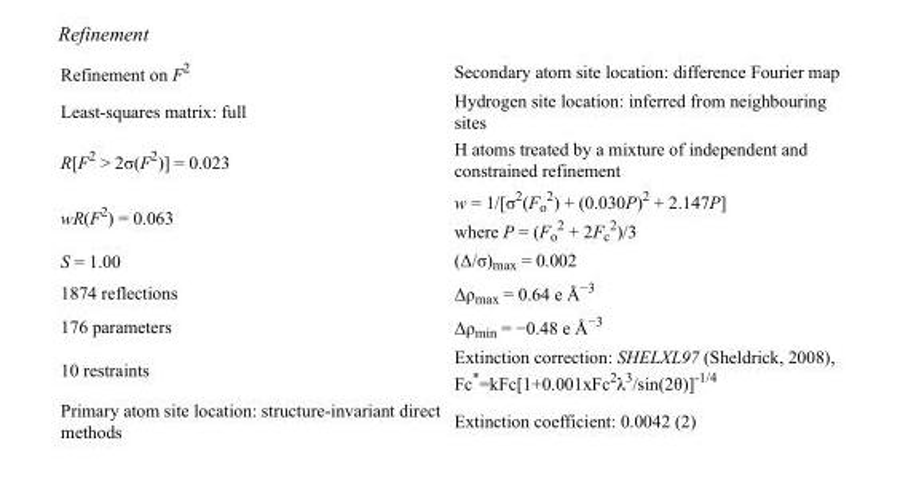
<table><tbody><tr><td>Refinement on F<sup>2</sup></td><td>Secondary atom site location: difference Fourier map</td></tr><tr><td>Least-squares matrix: full</td><td>Hydrogen site location: inferred from neighbouring sites</td></tr><tr><td>R[F<sup>2</sup> &gt; 2σ(F<sup>2</sup>)] = 0.023</td><td>H atoms treated by a mixture of independent and constrained refinement</td></tr><tr><td>wR(F<sup>2</sup>) = 0.063</td><td>w = 1/[σ<sup>2</sup>(F<sub>o</sub> <sup>2</sup>) + (0.030P)<sup>2</sup> + 2.147P] where P = (F<sub>o</sub> <sup>2</sup> + 2F<sub>c</sub> <sup>2</sup>)/3</td></tr><tr><td>S = 1.00</td><td>(Δ/σ)<sub>max</sub> = 0.002</td></tr><tr><td>1874 reflections</td><td>Δρ<sub>max</sub> = 0.64 e Å<sup>−3</sup></td></tr><tr><td>176 parameters</td><td>Δρ<sub>min</sub> = −0.48 e Å<sup>−3</sup></td></tr><tr><td>10 restraints</td><td>Extinction correction: SHELXL97 (Sheldrick, 2008), Fc*=kFc[1+0.001xFc<sup>2</sup>λ<sup>3</sup>/sin(2θ)]<sup>-1/4</sup></td></tr><tr><td>Primary atom site location: structure-invariant direct methods</td><td>Extinction coefficient: 0.0042 (2)</td></tr></tbody></table>